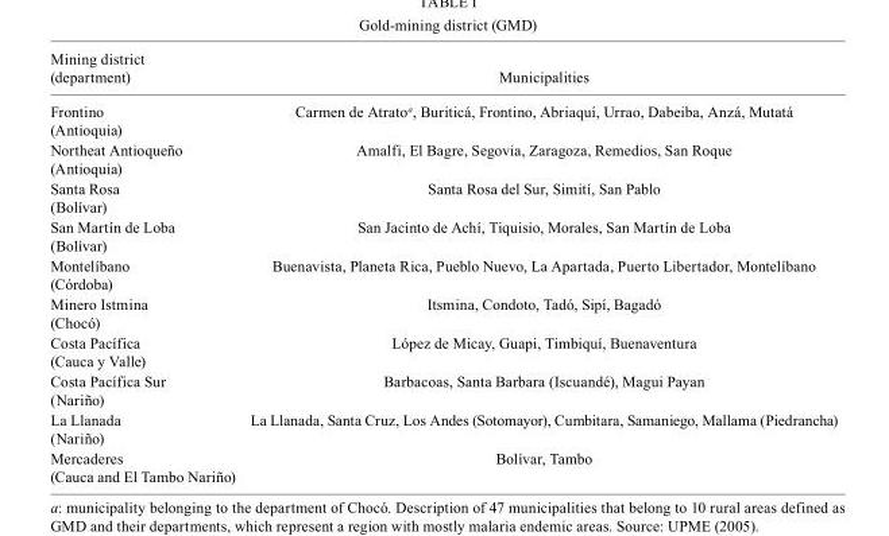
<table><thead><tr><td>Mining district (department)</td><td>Municipalities</td></tr></thead><tbody><tr><td>Frontino (Antioquia)</td><td>Carmen de Atrato<sup>a</sup>, Buriticá, Frontino, Abriaquí, Urrao, Dabeiba, Anzá, Mutatá</td></tr><tr><td>Northeat Antioqueño (Antioquia)</td><td>Amalfi, El Bagre, Segovia, Zaragoza, Remedios, San Roque</td></tr><tr><td>Santa Rosa (Bolívar)</td><td>Santa Rosa del Sur, Simití, San Pablo</td></tr><tr><td>San Martín de Loba (Bolívar)</td><td>San Jacinto de Achí, Tiquisio, Morales, San Martín de Loba</td></tr><tr><td>Montelíbano (Córdoba)</td><td>Buenavista, Planeta Rica, Pueblo Nuevo, La Apartada, Puerto Libertador, Montelíbano</td></tr><tr><td>Minero Istmina (Chocó)</td><td>Itsmina, Condoto, Tadó, Sipí, Bagadó</td></tr><tr><td>Costa Pacífica (Cauca y Valle)</td><td>López de Micay, Guapi, Timbiquí, Buenaventura</td></tr><tr><td>Costa Pacífica Sur (Nariño)</td><td>Barbacoas, Santa Barbara (Iscuandé), Magui Payan</td></tr><tr><td>La Llanada (Nariño)</td><td>La Llanada, Santa Cruz, Los Andes (Sotomayor), Cumbitara, Samaniego, Mallama (Piedrancha)</td></tr><tr><td>Mercaderes (Cauca and El Tambo Nariño)</td><td>Bolívar, Tambo</td></tr></tbody></table>